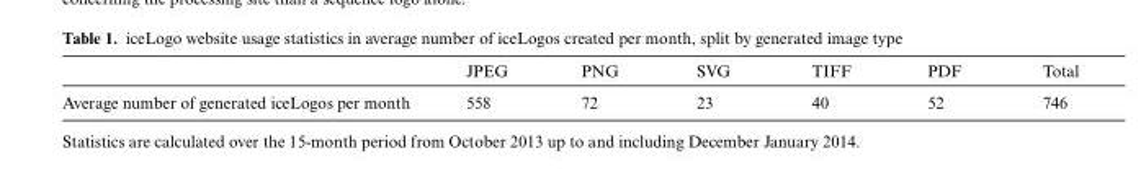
<table><thead><tr><td></td><td>JPEG</td><td>PNG</td><td>SVG</td><td>TIFF</td><td>PDF</td><td>Total</td></tr></thead><tbody><tr><td>Average number of generated iceLogos per month</td><td>558</td><td>72</td><td>23</td><td>40</td><td>52</td><td>746</td></tr></tbody></table>